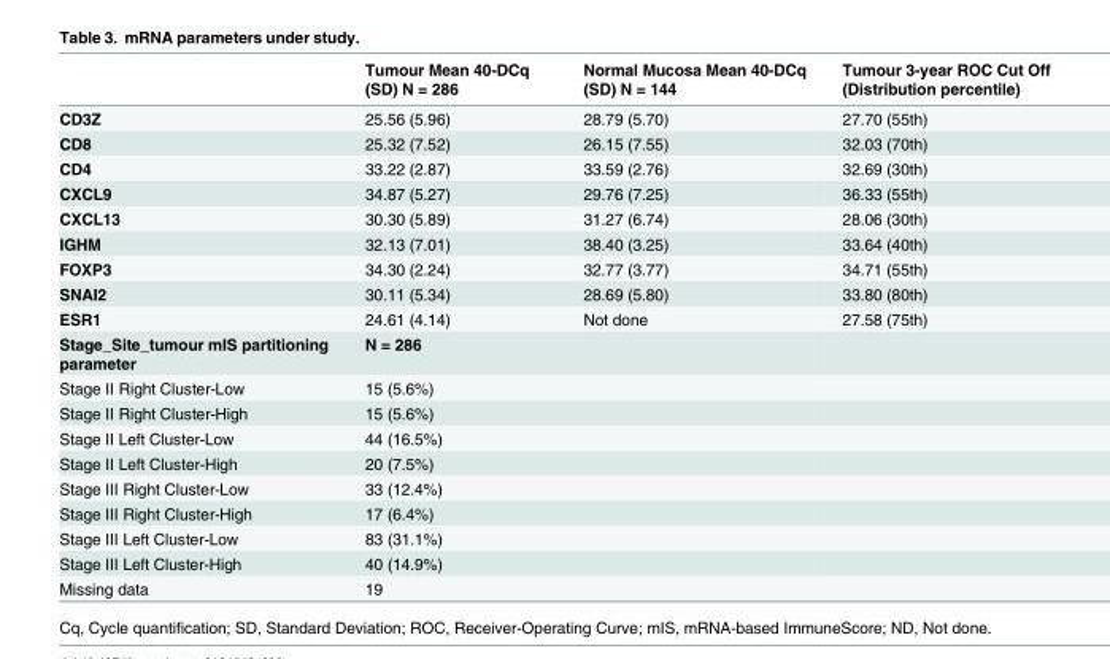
<table><thead><tr><td></td><td>Tumour Mean 40-DCq (SD) N = 286</td><td>Normal Mucosa Mean 40-DCq (SD) N = 144</td><td>Tumour 3-year ROC Cut Off (Distribution percentile)</td></tr></thead><tbody><tr><td>CD3Z</td><td>25.56 (5.96)</td><td>28.79 (5.70)</td><td>27.70 (55th)</td></tr><tr><td>CD8</td><td>25.32 (7.52)</td><td>26.15 (7.55)</td><td>32.03 (70th)</td></tr><tr><td>CD4</td><td>33.22 (2.87)</td><td>33.59 (2.76)</td><td>32.69 (30th)</td></tr><tr><td>CXCL9</td><td>34.87 (5.27)</td><td>29.76 (7.25)</td><td>36.33 (55th)</td></tr><tr><td>CXCL13</td><td>30.30 (5.89)</td><td>31.27 (6.74)</td><td>28.06 (30th)</td></tr><tr><td>IGHM</td><td>32.13 (7.01)</td><td>38.40 (3.25)</td><td>33.64 (40th)</td></tr><tr><td>FOXP3</td><td>34.30 (2.24)</td><td>32.77 (3.77)</td><td>34.71 (55th)</td></tr><tr><td>SNAI2</td><td>30.11 (5.34)</td><td>28.69 (5.80)</td><td>33.80 (80th)</td></tr><tr><td>ESR1</td><td>24.61 (4.14)</td><td>Not done</td><td>27.58 (75th)</td></tr><tr><td>Stage_Site_tumour mIS partitioning parameter</td><td>N = 286</td><td></td><td></td></tr><tr><td>Stage II Right Cluster-Low</td><td>15 (5.6%)</td><td></td><td></td></tr><tr><td>Stage II Right Cluster-High</td><td>15 (5.6%)</td><td></td><td></td></tr><tr><td>Stage II Left Cluster-Low</td><td>44 (16.5%)</td><td></td><td></td></tr><tr><td>Stage II Left Cluster-High</td><td>20 (7.5%)</td><td></td><td></td></tr><tr><td>Stage III Right Cluster-Low</td><td>33 (12.4%)</td><td></td><td></td></tr><tr><td>Stage III Right Cluster-High</td><td>17 (6.4%)</td><td></td><td></td></tr><tr><td>Stage III Left Cluster-Low</td><td>83 (31.1%)</td><td></td><td></td></tr><tr><td>Stage III Left Cluster-High</td><td>40 (14.9%)</td><td></td><td></td></tr><tr><td>Missing data</td><td>19</td><td></td><td></td></tr></tbody></table>